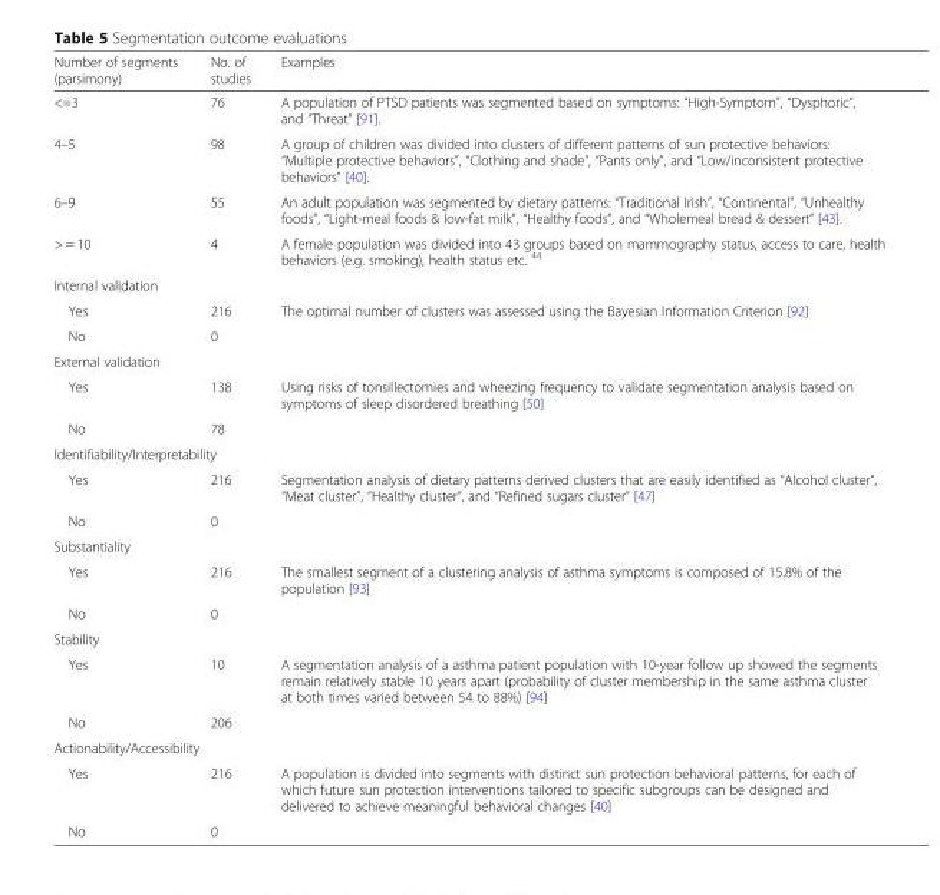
<table><thead><tr><td>Number of segments (parsimony)</td><td>No. of studies</td><td>Examples</td></tr></thead><tbody><tr><td>&lt;=3</td><td>76</td><td>A population of PTSD patients was segmented based on symptoms: “High-Symptom”, “Dysphoric”, and “Threat” [91].</td></tr><tr><td>4–5</td><td>98</td><td>A group of children was divided into clusters of different patterns of sun protective behaviors: “Multiple protective behaviors”, “Clothing and shade”, “Pants only”, and “Low/inconsistent protective behaviors” [40].</td></tr><tr><td>6–9</td><td>55</td><td>An adult population was segmented by dietary patterns: “Traditional Irish”, “Continental”, “Unhealthy foods”, “Light-meal foods &amp; low-fat milk”, “Healthy foods”, and “Wholemeal bread &amp; dessert” [43].</td></tr><tr><td>&gt; = 10</td><td>4</td><td>A female population was divided into 43 groups based on mammography status, access to care, health behaviors (e.g. smoking), health status etc. <sup>44</sup></td></tr><tr><td colspan="3">Internal validation</td></tr><tr><td>Yes</td><td>216</td><td>The optimal number of clusters was assessed using the Bayesian Information Criterion [92]</td></tr><tr><td>No</td><td>0</td><td></td></tr><tr><td colspan="3">External validation</td></tr><tr><td>Yes</td><td>138</td><td>Using risks of tonsillectomies and wheezing frequency to validate segmentation analysis based on symptoms of sleep disordered breathing [50]</td></tr><tr><td>No</td><td>78</td><td></td></tr><tr><td colspan="3">Identifiability/Interpretability</td></tr><tr><td>Yes</td><td>216</td><td>Segmentation analysis of dietary patterns derived clusters that are easily identified as “Alcohol cluster”, “Meat cluster”, “Healthy cluster”, and “Refined sugars cluster” [47]</td></tr><tr><td>No</td><td>0</td><td></td></tr><tr><td colspan="3">Substantiality</td></tr><tr><td>Yes</td><td>216</td><td>The smallest segment of a clustering analysis of asthma symptoms is composed of 15.8% of the population [93]</td></tr><tr><td>No</td><td>0</td><td></td></tr><tr><td colspan="3">Stability</td></tr><tr><td>Yes</td><td>10</td><td>A segmentation analysis of a asthma patient population with 10-year follow up showed the segments remain relatively stable 10 years apart (probability of cluster membership in the same asthma cluster at both times varied between 54 to 88%) [94]</td></tr><tr><td>No</td><td>206</td><td></td></tr><tr><td colspan="3">Actionability/Accessibility</td></tr><tr><td>Yes</td><td>216</td><td>A population is divided into segments with distinct sun protection behavioral patterns, for each of which future sun protection interventions tailored to specific subgroups can be designed and delivered to achieve meaningful behavioral changes [40]</td></tr><tr><td>No</td><td>0</td><td></td></tr></tbody></table>